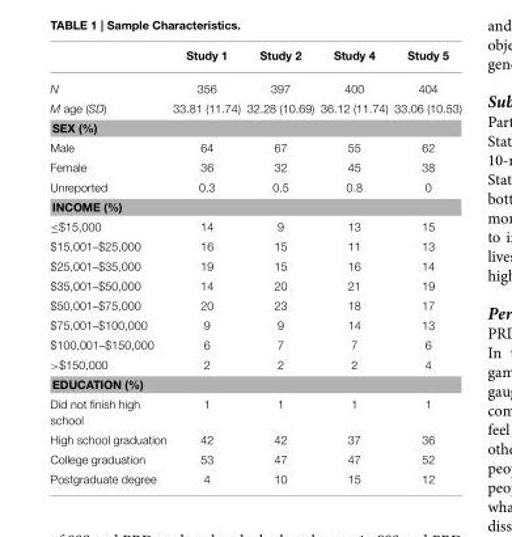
<table><thead><tr><td></td><td>Study 1</td><td>Study 2</td><td>Study 4</td><td>Study 5</td></tr></thead><tbody><tr><td>N</td><td>356</td><td>397</td><td>400</td><td>404</td></tr><tr><td>M age (SD)</td><td>33.81 (11.74)</td><td>32.28 (10.69)</td><td>36.12 (11.74)</td><td>33.06 (10.53)</td></tr><tr><td colspan="5">SEX (%)</td></tr><tr><td>Male</td><td>64</td><td>67</td><td>55</td><td>62</td></tr><tr><td>Female</td><td>36</td><td>32</td><td>45</td><td>38</td></tr><tr><td>Unreported</td><td>0.3</td><td>0.5</td><td>0.8</td><td>0</td></tr><tr><td colspan="5">INCOME (%)</td></tr><tr><td>≤$15,000</td><td>14</td><td>9</td><td>13</td><td>15</td></tr><tr><td>$15,001–$25,000</td><td>16</td><td>15</td><td>11</td><td>13</td></tr><tr><td>$25,001–$35,000</td><td>19</td><td>15</td><td>16</td><td>14</td></tr><tr><td>$35,001–$50,000</td><td>14</td><td>20</td><td>21</td><td>19</td></tr><tr><td>$50,001–$75,000</td><td>20</td><td>23</td><td>18</td><td>17</td></tr><tr><td>$75,001–$100,000</td><td>9</td><td>9</td><td>14</td><td>13</td></tr><tr><td>$100,001–$150,000</td><td>6</td><td>7</td><td>7</td><td>6</td></tr><tr><td>&gt;$150,000</td><td>2</td><td>2</td><td>2</td><td>4</td></tr><tr><td colspan="5">EDUCATION (%)</td></tr><tr><td>Did not finish high school</td><td>1</td><td>1</td><td>1</td><td>1</td></tr><tr><td>High school graduation</td><td>42</td><td>42</td><td>37</td><td>36</td></tr><tr><td>College graduation</td><td>53</td><td>47</td><td>47</td><td>52</td></tr><tr><td>Postgraduate degree</td><td>4</td><td>10</td><td>15</td><td>12</td></tr></tbody></table>